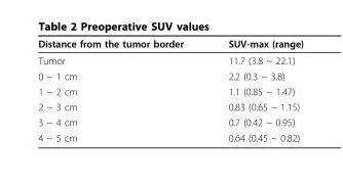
<table><thead><tr><td>Distance from the tumor border</td><td>SUV-max (range)</td></tr></thead><tbody><tr><td>Tumor</td><td>11.7 (3.8 ~ 22.1)</td></tr><tr><td>0 ~ 1 cm</td><td>2.2 (0.3 ~ 3.8)</td></tr><tr><td>1 ~ 2 cm</td><td>1.1 (0.85 ~ 1.47)</td></tr><tr><td>2 ~ 3 cm</td><td>0.83 (0.65 ~ 1.15)</td></tr><tr><td>3 ~ 4 cm</td><td>0.7 (0.42 ~ 0.95)</td></tr><tr><td>4 ~ 5 cm</td><td>0.64 (0.45 ~ 0.82)</td></tr></tbody></table>